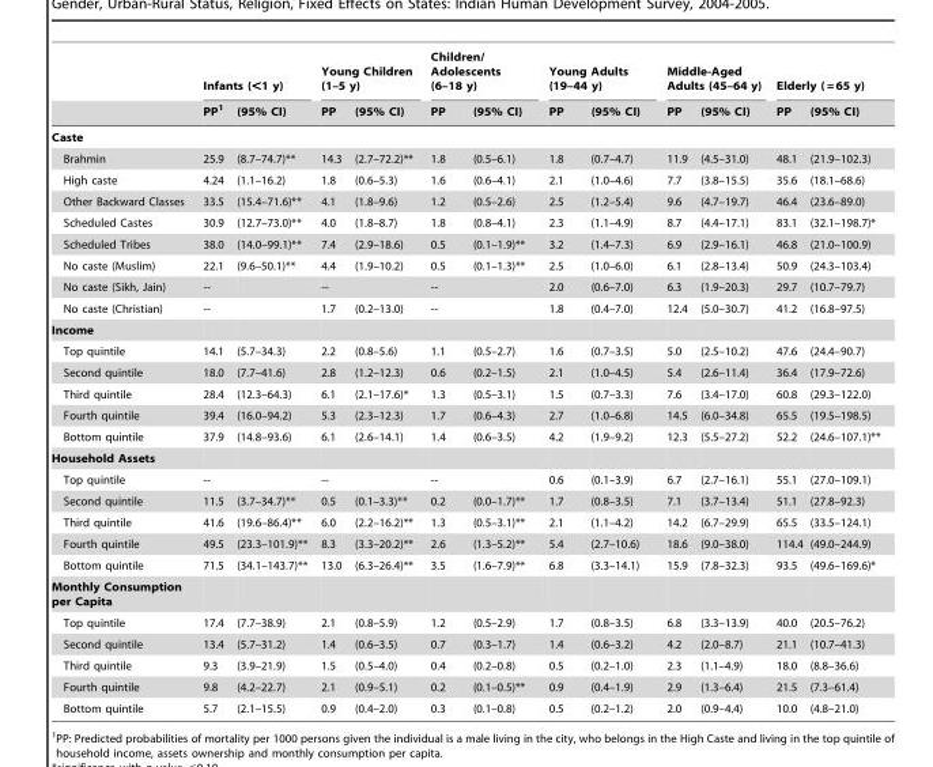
<table><thead><tr><td rowspan="2"></td><td colspan="2">Infants (&lt;1 y)</td><td colspan="2">Young Children (1–5 y)</td><td colspan="2">Children/ Adolescents (6–18 y)</td><td colspan="2">Young Adults (19–44 y)</td><td colspan="2">Middle-Aged Adults (45–64 y)</td><td colspan="2">Elderly ( = 65 y)</td></tr><tr><td>PP<sup>1</sup></td><td>(95% CI)</td><td>PP</td><td>(95% CI)</td><td>PP</td><td>(95% CI)</td><td>PP</td><td>(95% CI)</td><td>PP</td><td>(95% CI)</td><td>PP</td><td>(95% CI)</td></tr></thead><tbody><tr><td colspan="13">Caste</td></tr><tr><td>Brahmin</td><td>25.9</td><td>(8.7–74.7)**</td><td>14.3</td><td>(2.7–72.2)**</td><td>1.8</td><td>(0.5–6.1)</td><td>1.8</td><td>(0.7–4.7)</td><td>11.9</td><td>(4.5–31.0)</td><td>48.1</td><td>(21.9–102.3)</td></tr><tr><td>High caste</td><td>4.24</td><td>(1.1–16.2)</td><td>1.8</td><td>(0.6–5.3)</td><td>1.6</td><td>(0.6–4.1)</td><td>2.1</td><td>(1.0–4.6)</td><td>7.7</td><td>(3.8–15.5)</td><td>35.6</td><td>(18.1–68.6)</td></tr><tr><td>Other Backward Classes</td><td>33.5</td><td>(15.4–71.6)**</td><td>4.1</td><td>(1.8–9.6)</td><td>1.2</td><td>(0.5–2.6)</td><td>2.5</td><td>(1.2–5.4)</td><td>9.6</td><td>(4.7–19.7)</td><td>46.4</td><td>(23.6–89.0)</td></tr><tr><td>Scheduled Castes</td><td>30.9</td><td>(12.7–73.0)**</td><td>4.0</td><td>(1.8–8.7)</td><td>1.8</td><td>(0.8–4.1)</td><td>2.3</td><td>(1.1–4.9)</td><td>8.7</td><td>(4.4–17.1)</td><td>83.1</td><td>(32.1–198.7)*</td></tr><tr><td>Scheduled Tribes</td><td>38.0</td><td>(14.0–99.1)**</td><td>7.4</td><td>(2.9–18.6)</td><td>0.5</td><td>(0.1–1.9)**</td><td>3.2</td><td>(1.4–7.3)</td><td>6.9</td><td>(2.9–16.1)</td><td>46.8</td><td>(21.0–100.9)</td></tr><tr><td>No caste (Muslim)</td><td>22.1</td><td>(9.6–50.1)**</td><td>4.4</td><td>(1.9–10.2)</td><td>0.5</td><td>(0.1–1.3)**</td><td>2.5</td><td>(1.0–6.0)</td><td>6.1</td><td>(2.8–13.4)</td><td>50.9</td><td>(24.3–103.4)</td></tr><tr><td>No caste (Sikh, Jain)</td><td>--</td><td></td><td>--</td><td></td><td>--</td><td></td><td>2.0</td><td>(0.6–7.0)</td><td>6.3</td><td>(1.9–20.3)</td><td>29.7</td><td>(10.7–79.7)</td></tr><tr><td>No caste (Christian)</td><td>--</td><td></td><td>1.7</td><td>(0.2–13.0)</td><td>--</td><td></td><td>1.8</td><td>(0.4–7.0)</td><td>12.4</td><td>(5.0–30.7)</td><td>41.2</td><td>(16.8–97.5)</td></tr><tr><td colspan="13">Income</td></tr><tr><td>Top quintile</td><td>14.1</td><td>(5.7–34.3)</td><td>2.2</td><td>(0.8–5.6)</td><td>1.1</td><td>(0.5–2.7)</td><td>1.6</td><td>(0.7–3.5)</td><td>5.0</td><td>(2.5–10.2)</td><td>47.6</td><td>(24.4–90.7)</td></tr><tr><td>Second quintile</td><td>18.0</td><td>(7.7–41.6)</td><td>2.8</td><td>(1.2–12.3)</td><td>0.6</td><td>(0.2–1.5)</td><td>2.1</td><td>(1.0–4.5)</td><td>5.4</td><td>(2.6–11.4)</td><td>36.4</td><td>(17.9–72.6)</td></tr><tr><td>Third quintile</td><td>28.4</td><td>(12.3–64.3)</td><td>6.1</td><td>(2.1–17.6)*</td><td>1.3</td><td>(0.5–3.1)</td><td>1.5</td><td>(0.7–3.3)</td><td>7.6</td><td>(3.4–17.0)</td><td>60.8</td><td>(29.3–122.0)</td></tr><tr><td>Fourth quintile</td><td>39.4</td><td>(16.0–94.2)</td><td>5.3</td><td>(2.3–12.3)</td><td>1.7</td><td>(0.6–4.3)</td><td>2.7</td><td>(1.0–6.8)</td><td>14.5</td><td>(6.0–34.8)</td><td>65.5</td><td>(19.5–198.5)</td></tr><tr><td>Bottom quintile</td><td>37.9</td><td>(14.8–93.6)</td><td>6.1</td><td>(2.6–14.1)</td><td>1.4</td><td>(0.6–3.5)</td><td>4.2</td><td>(1.9–9.2)</td><td>12.3</td><td>(5.5–27.2)</td><td>52.2</td><td>(24.6–107.1)**</td></tr><tr><td colspan="13">Household Assets</td></tr><tr><td>Top quintile</td><td>--</td><td></td><td>--</td><td></td><td>--</td><td></td><td>0.6</td><td>(0.1–3.9)</td><td>6.7</td><td>(2.7–16.1)</td><td>55.1</td><td>(27.0–109.1)</td></tr><tr><td>Second quintile</td><td>11.5</td><td>(3.7–34.7)**</td><td>0.5</td><td>(0.1–3.3)**</td><td>0.2</td><td>(0.0–1.7)**</td><td>1.7</td><td>(0.8–3.5)</td><td>7.1</td><td>(3.7–13.4)</td><td>51.1</td><td>(27.8–92.3)</td></tr><tr><td>Third quintile</td><td>41.6</td><td>(19.6–86.4)**</td><td>6.0</td><td>(2.2–16.2)**</td><td>1.3</td><td>(0.5–3.1)**</td><td>2.1</td><td>(1.1–4.2)</td><td>14.2</td><td>(6.7–29.9)</td><td>65.5</td><td>(33.5–124.1)</td></tr><tr><td>Fourth quintile</td><td>49.5</td><td>(23.3–101.9)**</td><td>8.3</td><td>(3.3–20.2)**</td><td>2.6</td><td>(1.3–5.2)**</td><td>5.4</td><td>(2.7–10.6)</td><td>18.6</td><td>(9.0–38.0)</td><td>114.4</td><td>(49.0–244.9)</td></tr><tr><td>Bottom quintile</td><td>71.5</td><td>(34.1–143.7)**</td><td>13.0</td><td>(6.3–26.4)**</td><td>3.5</td><td>(1.6–7.9)**</td><td>6.8</td><td>(3.3–14.1)</td><td>15.9</td><td>(7.8–32.3)</td><td>93.5</td><td>(49.6–169.6)*</td></tr><tr><td colspan="13">Monthly Consumption per Capita</td></tr><tr><td>Top quintile</td><td>17.4</td><td>(7.7–38.9)</td><td>2.1</td><td>(0.8–5.9)</td><td>1.2</td><td>(0.5–2.9)</td><td>1.7</td><td>(0.8–3.5)</td><td>6.8</td><td>(3.3–13.9)</td><td>40.0</td><td>(20.5–76.2)</td></tr><tr><td>Second quintile</td><td>13.4</td><td>(5.7–31.2)</td><td>1.4</td><td>(0.6–3.5)</td><td>0.7</td><td>(0.3–1.7)</td><td>1.4</td><td>(0.6–3.2)</td><td>4.2</td><td>(2.0–8.7)</td><td>21.1</td><td>(10.7–41.3)</td></tr><tr><td>Third quintile</td><td>9.3</td><td>(3.9–21.9)</td><td>1.5</td><td>(0.5–4.0)</td><td>0.4</td><td>(0.2–0.8)</td><td>0.5</td><td>(0.2–1.0)</td><td>2.3</td><td>(1.1–4.9)</td><td>18.0</td><td>(8.8–36.6)</td></tr><tr><td>Fourth quintile</td><td>9.8</td><td>(4.2–22.7)</td><td>2.1</td><td>(0.9–5.1)</td><td>0.2</td><td>(0.1–0.5)**</td><td>0.9</td><td>(0.4–1.9)</td><td>2.9</td><td>(1.3–6.4)</td><td>21.5</td><td>(7.3–61.4)</td></tr><tr><td>Bottom quintile</td><td>5.7</td><td>(2.1–15.5)</td><td>0.9</td><td>(0.4–2.0)</td><td>0.3</td><td>(0.1–0.8)</td><td>0.5</td><td>(0.2–1.2)</td><td>2.0</td><td>(0.9–4.4)</td><td>10.0</td><td>(4.8–21.0)</td></tr></tbody></table>